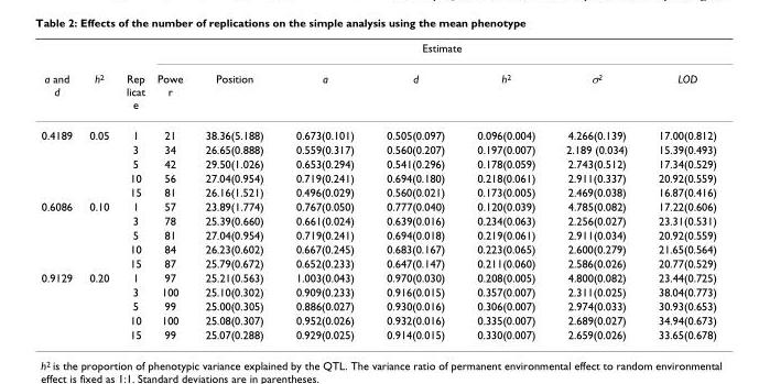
<table><thead><tr><td rowspan="2">a and d</td><td rowspan="2">h<sup>2</sup></td><td rowspan="2">Rep licat e</td><td colspan="7">Estimate</td></tr><tr><td>Powe r</td><td>Position</td><td>a</td><td>d</td><td>h<sup>2</sup></td><td>σ<sup>2</sup></td><td>LOD</td></tr></thead><tbody><tr><td rowspan="5">0.4189</td><td>0.05</td><td>1</td><td>21</td><td>38.36(5.188)</td><td>0.673(0.101)</td><td>0.505(0.097)</td><td>0.096(0.004)</td><td>4.266(0.139)</td><td>17.00(0.812)</td></tr><tr><td></td><td>3</td><td>34</td><td>26.65(0.888)</td><td>0.559(0.317)</td><td>0.560(0.207)</td><td>0.197(0.007)</td><td>2.189 (0.034)</td><td>15.39(0.493)</td></tr><tr><td></td><td>5</td><td>42</td><td>29.50(1.026)</td><td>0.653(0.294)</td><td>0.541(0.296)</td><td>0.178(0.059)</td><td>2.743(0.512)</td><td>17.34(0.529)</td></tr><tr><td></td><td>10</td><td>56</td><td>27.04(0.954)</td><td>0.719(0.241)</td><td>0.694(0.180)</td><td>0.218(0.061)</td><td>2.911(0.337)</td><td>20.92(0.559)</td></tr><tr><td></td><td>15</td><td>81</td><td>26.16(1.521)</td><td>0.496(0.029)</td><td>0.560(0.021)</td><td>0.173(0.005)</td><td>2.469(0.038)</td><td>16.87(0.416)</td></tr><tr><td rowspan="5">0.6086</td><td>0.10</td><td>1</td><td>57</td><td>23.89(1.774)</td><td>0.767(0.050)</td><td>0.777(0.040)</td><td>0.120(0.039)</td><td>4.785(0.082)</td><td>17.22(0.606)</td></tr><tr><td></td><td>3</td><td>78</td><td>25.39(0.660)</td><td>0.661(0.024)</td><td>0.639(0.016)</td><td>0.234(0.063)</td><td>2.256(0.027)</td><td>23.31(0.531)</td></tr><tr><td></td><td>5</td><td>81</td><td>27.04(0.954)</td><td>0.719(0.241)</td><td>0.694(0.018)</td><td>0.219(0.061)</td><td>2.911(0.034)</td><td>20.92(0.559)</td></tr><tr><td></td><td>10</td><td>84</td><td>26.23(0.602)</td><td>0.667(0.245)</td><td>0.683(0.167)</td><td>0.223(0.065)</td><td>2.600(0.279)</td><td>21.65(0.564)</td></tr><tr><td></td><td>15</td><td>87</td><td>25.79(0.672)</td><td>0.652(0.233)</td><td>0.647(0.147)</td><td>0.211(0.060)</td><td>2.586(0.026)</td><td>20.77(0.529)</td></tr><tr><td rowspan="5">0.9129</td><td>0.20</td><td>1</td><td>97</td><td>25.21(0.563)</td><td>1.003(0.043)</td><td>0.970(0.030)</td><td>0.208(0.005)</td><td>4.800(0.082)</td><td>23.44(0.725)</td></tr><tr><td></td><td>3</td><td>100</td><td>25.10(0.302)</td><td>0.909(0.233)</td><td>0.916(0.015)</td><td>0.357(0.007)</td><td>2.311(0.025)</td><td>38.04(0.773)</td></tr><tr><td></td><td>5</td><td>99</td><td>25.00(0.305)</td><td>0.886(0.027)</td><td>0.930(0.016)</td><td>0.306(0.007)</td><td>2.974(0.033)</td><td>30.93(0.653)</td></tr><tr><td></td><td>10</td><td>100</td><td>25.08(0.307)</td><td>0.952(0.026)</td><td>0.932(0.016)</td><td>0.335(0.007)</td><td>2.689(0.027)</td><td>34.94(0.673)</td></tr><tr><td></td><td>15</td><td>99</td><td>25.07(0.288)</td><td>0.929(0.025)</td><td>0.914(0.015)</td><td>0.330(0.007)</td><td>2.659(0.026)</td><td>33.65(0.678)</td></tr></tbody></table>